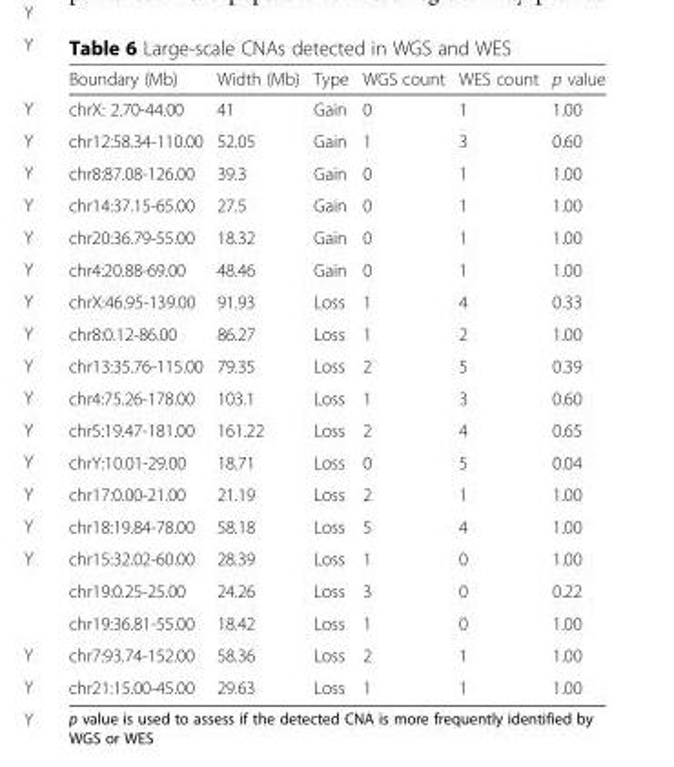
<table><thead><tr><td>Boundary (Mb)</td><td>Width (Mb)</td><td>Type</td><td>WGS count</td><td>WES count</td><td>p value</td></tr></thead><tbody><tr><td>chrX: 2.70-44.00</td><td>41</td><td>Gain</td><td>0</td><td>1</td><td>1.00</td></tr><tr><td>chr12:58.34-110.00</td><td>52.05</td><td>Gain</td><td>1</td><td>3</td><td>0.60</td></tr><tr><td>chr8:87.08-126.00</td><td>39.3</td><td>Gain</td><td>0</td><td>1</td><td>1.00</td></tr><tr><td>chr14:37.15-65.00</td><td>27.5</td><td>Gain</td><td>0</td><td>1</td><td>1.00</td></tr><tr><td>chr20:36.79-55.00</td><td>18.32</td><td>Gain</td><td>0</td><td>1</td><td>1.00</td></tr><tr><td>chr4:20.88-69.00</td><td>48.46</td><td>Gain</td><td>0</td><td>1</td><td>1.00</td></tr><tr><td>chrX:46.95-139.00</td><td>91.93</td><td>Loss</td><td>1</td><td>4</td><td>0.33</td></tr><tr><td>chr8:0.12-86.00</td><td>86.27</td><td>Loss</td><td>1</td><td>2</td><td>1.00</td></tr><tr><td>chr13:35.76-115.00</td><td>79.35</td><td>Loss</td><td>2</td><td>5</td><td>0.39</td></tr><tr><td>chr4:75.26-178.00</td><td>103.1</td><td>Loss</td><td>1</td><td>3</td><td>0.60</td></tr><tr><td>chr5:19.47-181.00</td><td>161.22</td><td>Loss</td><td>2</td><td>4</td><td>0.65</td></tr><tr><td>chrY:10.01-29.00</td><td>18.71</td><td>Loss</td><td>0</td><td>5</td><td>0.04</td></tr><tr><td>chr17:0.00-21.00</td><td>21.19</td><td>Loss</td><td>2</td><td>1</td><td>1.00</td></tr><tr><td>chr18:19.84-78.00</td><td>58.18</td><td>Loss</td><td>5</td><td>4</td><td>1.00</td></tr><tr><td>chr15:32.02-60.00</td><td>28.39</td><td>Loss</td><td>1</td><td>0</td><td>1.00</td></tr><tr><td>chr19:0.25-25.00</td><td>24.26</td><td>Loss</td><td>3</td><td>0</td><td>0.22</td></tr><tr><td>chr19:36.81-55.00</td><td>18.42</td><td>Loss</td><td>1</td><td>0</td><td>1.00</td></tr><tr><td>chr7:93.74-152.00</td><td>58.36</td><td>Loss</td><td>2</td><td>1</td><td>1.00</td></tr><tr><td>chr21:15.00-45.00</td><td>29.63</td><td>Loss</td><td>1</td><td>1</td><td>1.00</td></tr></tbody></table>